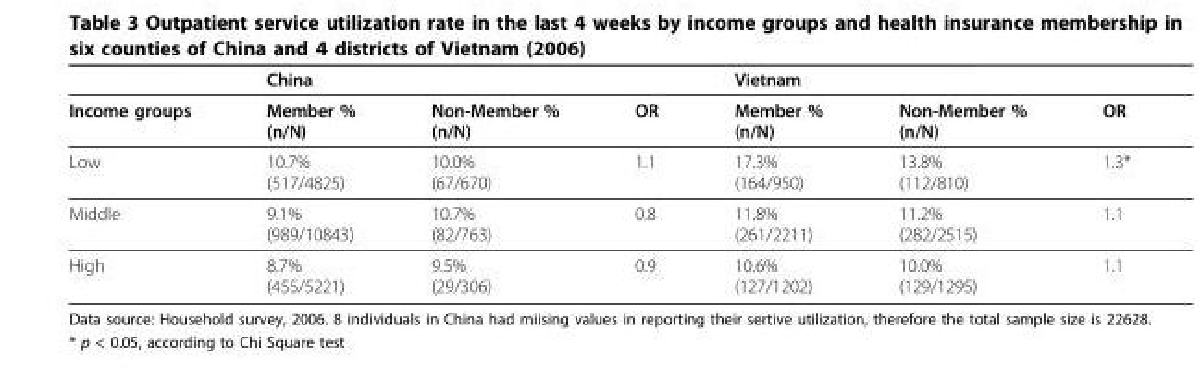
<table><thead><tr><td></td><td>China</td><td></td><td></td><td>Vietnam</td><td></td><td></td></tr></thead><tbody><tr><td>Income groups</td><td>Member % (n/N)</td><td>Non-Member % (n/N)</td><td>OR</td><td>Member % (n/N)</td><td>Non-Member % (n/N)</td><td>OR</td></tr><tr><td>Low</td><td>10.7% (517/4825)</td><td>10.0% (67/670)</td><td>1.1</td><td>17.3% (164/950)</td><td>13.8% (112/810)</td><td>1.3*</td></tr><tr><td>Middle</td><td>9.1% (989/10843)</td><td>10.7% (82/763)</td><td>0.8</td><td>11.8% (261/2211)</td><td>11.2% (282/2515)</td><td>1.1</td></tr><tr><td>High</td><td>8.7% (455/5221)</td><td>9.5% (29/306)</td><td>0.9</td><td>10.6% (127/1202)</td><td>10.0% (129/1295)</td><td>1.1</td></tr></tbody></table>